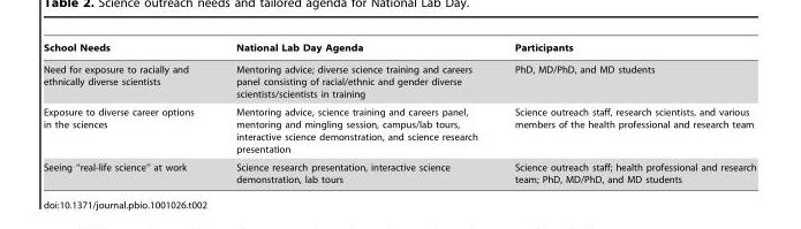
<table><thead><tr><td>School Needs</td><td>National Lab Day Agenda</td><td>Participants</td></tr></thead><tbody><tr><td>Need for exposure to racially and ethnically diverse scientists</td><td>Mentoring advice; diverse science training and careers panel consisting of racial/ethnic and gender diverse scientists/scientists in training</td><td>PhD, MD/PhD, and MD students</td></tr><tr><td>Exposure to diverse career options in the sciences</td><td>Mentoring advice, science training and careers panel, mentoring and mingling session, campus/lab tours, interactive science demonstration, and science research presentation</td><td>Science outreach staff, research scientists, and various members of the health professional and research team</td></tr><tr><td>Seeing ‘‘real-life science’’ at work</td><td>Science research presentation, interactive science demonstration, lab tours</td><td>Science outreach staff; health professional and research team; PhD, MD/PhD, and MD students</td></tr></tbody></table>